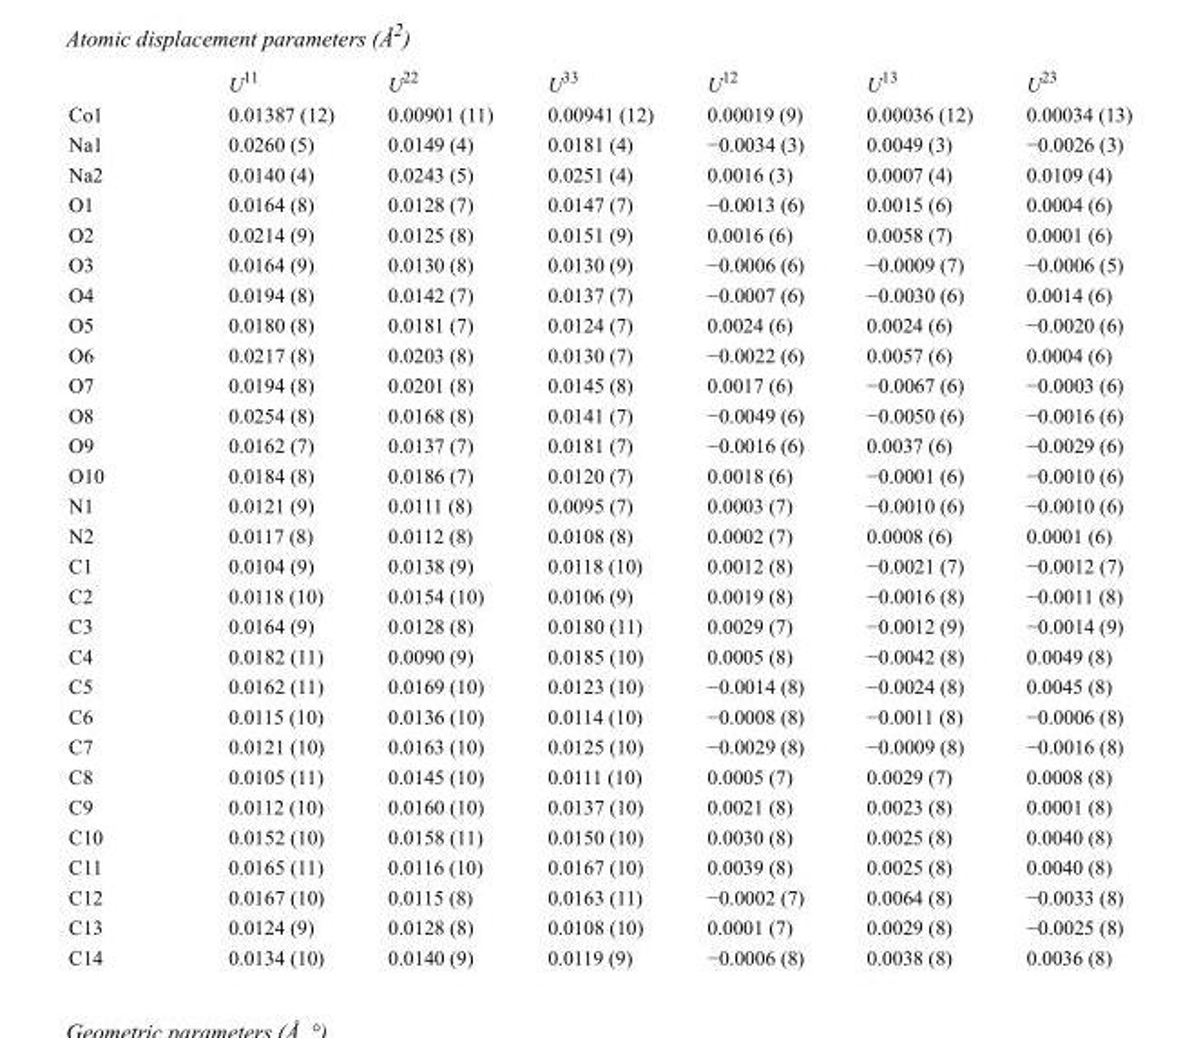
<table><thead><tr><td></td><td>U<sup>11</sup></td><td>U<sup>22</sup></td><td>U<sup>33</sup></td><td>U<sup>12</sup></td><td>U<sup>13</sup></td><td>U<sup>23</sup></td></tr></thead><tbody><tr><td>Co1</td><td>0.01387 (12)</td><td>0.00901 (11)</td><td>0.00941 (12)</td><td>0.00019 (9)</td><td>0.00036 (12)</td><td>0.00034 (13)</td></tr><tr><td>Na1</td><td>0.0260 (5)</td><td>0.0149 (4)</td><td>0.0181 (4)</td><td>−0.0034 (3)</td><td>0.0049 (3)</td><td>−0.0026 (3)</td></tr><tr><td>Na2</td><td>0.0140 (4)</td><td>0.0243 (5)</td><td>0.0251 (4)</td><td>0.0016 (3)</td><td>0.0007 (4)</td><td>0.0109 (4)</td></tr><tr><td>O1</td><td>0.0164 (8)</td><td>0.0128 (7)</td><td>0.0147 (7)</td><td>−0.0013 (6)</td><td>0.0015 (6)</td><td>0.0004 (6)</td></tr><tr><td>O2</td><td>0.0214 (9)</td><td>0.0125 (8)</td><td>0.0151 (9)</td><td>0.0016 (6)</td><td>0.0058 (7)</td><td>0.0001 (6)</td></tr><tr><td>O3</td><td>0.0164 (9)</td><td>0.0130 (8)</td><td>0.0130 (9)</td><td>−0.0006 (6)</td><td>−0.0009 (7)</td><td>−0.0006 (5)</td></tr><tr><td>O4</td><td>0.0194 (8)</td><td>0.0142 (7)</td><td>0.0137 (7)</td><td>−0.0007 (6)</td><td>−0.0030 (6)</td><td>0.0014 (6)</td></tr><tr><td>O5</td><td>0.0180 (8)</td><td>0.0181 (7)</td><td>0.0124 (7)</td><td>0.0024 (6)</td><td>0.0024 (6)</td><td>−0.0020 (6)</td></tr><tr><td>O6</td><td>0.0217 (8)</td><td>0.0203 (8)</td><td>0.0130 (7)</td><td>−0.0022 (6)</td><td>0.0057 (6)</td><td>0.0004 (6)</td></tr><tr><td>O7</td><td>0.0194 (8)</td><td>0.0201 (8)</td><td>0.0145 (8)</td><td>0.0017 (6)</td><td>−0.0067 (6)</td><td>−0.0003 (6)</td></tr><tr><td>O8</td><td>0.0254 (8)</td><td>0.0168 (8)</td><td>0.0141 (7)</td><td>−0.0049 (6)</td><td>−0.0050 (6)</td><td>−0.0016 (6)</td></tr><tr><td>O9</td><td>0.0162 (7)</td><td>0.0137 (7)</td><td>0.0181 (7)</td><td>−0.0016 (6)</td><td>0.0037 (6)</td><td>−0.0029 (6)</td></tr><tr><td>O10</td><td>0.0184 (8)</td><td>0.0186 (7)</td><td>0.0120 (7)</td><td>0.0018 (6)</td><td>−0.0001 (6)</td><td>−0.0010 (6)</td></tr><tr><td>N1</td><td>0.0121 (9)</td><td>0.0111 (8)</td><td>0.0095 (7)</td><td>0.0003 (7)</td><td>−0.0010 (6)</td><td>−0.0010 (6)</td></tr><tr><td>N2</td><td>0.0117 (8)</td><td>0.0112 (8)</td><td>0.0108 (8)</td><td>0.0002 (7)</td><td>0.0008 (6)</td><td>0.0001 (6)</td></tr><tr><td>C1</td><td>0.0104 (9)</td><td>0.0138 (9)</td><td>0.0118 (10)</td><td>0.0012 (8)</td><td>−0.0021 (7)</td><td>−0.0012 (7)</td></tr><tr><td>C2</td><td>0.0118 (10)</td><td>0.0154 (10)</td><td>0.0106 (9)</td><td>0.0019 (8)</td><td>−0.0016 (8)</td><td>−0.0011 (8)</td></tr><tr><td>C3</td><td>0.0164 (9)</td><td>0.0128 (8)</td><td>0.0180 (11)</td><td>0.0029 (7)</td><td>−0.0012 (9)</td><td>−0.0014 (9)</td></tr><tr><td>C4</td><td>0.0182 (11)</td><td>0.0090 (9)</td><td>0.0185 (10)</td><td>0.0005 (8)</td><td>−0.0042 (8)</td><td>0.0049 (8)</td></tr><tr><td>C5</td><td>0.0162 (11)</td><td>0.0169 (10)</td><td>0.0123 (10)</td><td>−0.0014 (8)</td><td>−0.0024 (8)</td><td>0.0045 (8)</td></tr><tr><td>C6</td><td>0.0115 (10)</td><td>0.0136 (10)</td><td>0.0114 (10)</td><td>−0.0008 (8)</td><td>−0.0011 (8)</td><td>−0.0006 (8)</td></tr><tr><td>C7</td><td>0.0121 (10)</td><td>0.0163 (10)</td><td>0.0125 (10)</td><td>−0.0029 (8)</td><td>−0.0009 (8)</td><td>−0.0016 (8)</td></tr><tr><td>C8</td><td>0.0105 (11)</td><td>0.0145 (10)</td><td>0.0111 (10)</td><td>0.0005 (7)</td><td>0.0029 (7)</td><td>0.0008 (8)</td></tr><tr><td>C9</td><td>0.0112 (10)</td><td>0.0160 (10)</td><td>0.0137 (10)</td><td>0.0021 (8)</td><td>0.0023 (8)</td><td>0.0001 (8)</td></tr><tr><td>C10</td><td>0.0152 (10)</td><td>0.0158 (11)</td><td>0.0150 (10)</td><td>0.0030 (8)</td><td>0.0025 (8)</td><td>0.0040 (8)</td></tr><tr><td>C11</td><td>0.0165 (11)</td><td>0.0116 (10)</td><td>0.0167 (10)</td><td>0.0039 (8)</td><td>0.0025 (8)</td><td>0.0040 (8)</td></tr><tr><td>C12</td><td>0.0167 (10)</td><td>0.0115 (8)</td><td>0.0163 (11)</td><td>−0.0002 (7)</td><td>0.0064 (8)</td><td>−0.0033 (8)</td></tr><tr><td>C13</td><td>0.0124 (9)</td><td>0.0128 (8)</td><td>0.0108 (10)</td><td>0.0001 (7)</td><td>0.0029 (8)</td><td>−0.0025 (8)</td></tr><tr><td>C14</td><td>0.0134 (10)</td><td>0.0140 (9)</td><td>0.0119 (9)</td><td>−0.0006 (8)</td><td>0.0038 (8)</td><td>0.0036 (8)</td></tr></tbody></table>